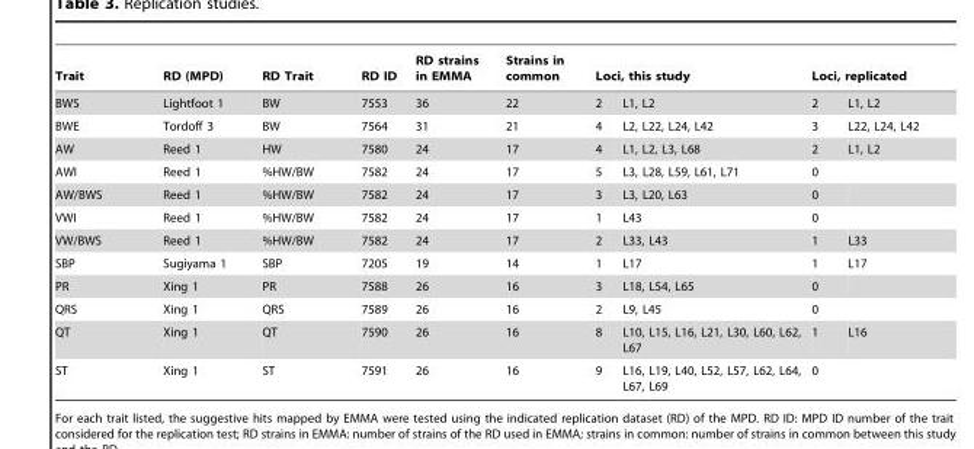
<table><thead><tr><td rowspan="2">Trait BWS</td><td rowspan="2">RD (MPD) Lightfoot 1</td><td rowspan="2">RD Trait BW</td><td rowspan="2">RD ID 7553</td><td rowspan="2">RD strains in EMMA 36</td><td rowspan="2">Strains in common 22</td><td colspan="2">Loci, this study</td><td colspan="2">Loci, replicated</td></tr><tr><td>2</td><td>L1, L2</td><td>2</td><td>L1, L2</td></tr></thead><tbody><tr><td>BWE</td><td>Tordoff 3</td><td>BW</td><td>7564</td><td>31</td><td>21</td><td>4</td><td>L2, L22, L24, L42</td><td>3</td><td>L22, L24, L42</td></tr><tr><td>AW</td><td>Reed 1</td><td>HW</td><td>7580</td><td>24</td><td>17</td><td>4</td><td>L1, L2, L3, L68</td><td>2</td><td>L1, L2</td></tr><tr><td>AWI</td><td>Reed 1</td><td>%HW/BW</td><td>7582</td><td>24</td><td>17</td><td>5</td><td>L3, L28, L59, L61, L71</td><td>0</td><td></td></tr><tr><td>AW/BWS</td><td>Reed 1</td><td>%HW/BW</td><td>7582</td><td>24</td><td>17</td><td>3</td><td>L3, L20, L63</td><td>0</td><td></td></tr><tr><td>VWI</td><td>Reed 1</td><td>%HW/BW</td><td>7582</td><td>24</td><td>17</td><td>1</td><td>L43</td><td>0</td><td></td></tr><tr><td>VW/BWS</td><td>Reed 1</td><td>%HW/BW</td><td>7582</td><td>24</td><td>17</td><td>2</td><td>L33, L43</td><td>1</td><td>L33</td></tr><tr><td>SBP</td><td>Sugiyama 1</td><td>SBP</td><td>7205</td><td>19</td><td>14</td><td>1</td><td>L17</td><td>1</td><td>L17</td></tr><tr><td>PR</td><td>Xing 1</td><td>PR</td><td>7588</td><td>26</td><td>16</td><td>3</td><td>L18, L54, L65</td><td>0</td><td></td></tr><tr><td>QRS</td><td>Xing 1</td><td>QRS</td><td>7589</td><td>26</td><td>16</td><td>2</td><td>L9, L45</td><td>0</td><td></td></tr><tr><td>QT</td><td>Xing 1</td><td>QT</td><td>7590</td><td>26</td><td>16</td><td>8</td><td>L10, L15, L16, L21, L30, L60, L62, L67</td><td>1</td><td>L16</td></tr><tr><td>ST</td><td>Xing 1</td><td>ST</td><td>7591</td><td>26</td><td>16</td><td>9</td><td>L16, L19, L40, L52, L57, L62, L64, L67, L69</td><td>0</td><td></td></tr></tbody></table>